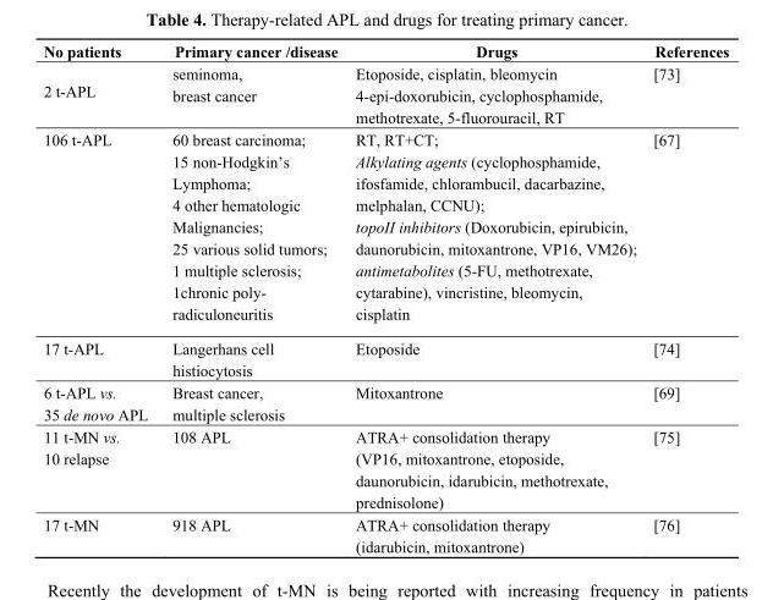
<table><thead><tr><td>No patients</td><td>Primary cancer /disease</td><td>Drugs</td><td>References</td></tr></thead><tbody><tr><td>2 t-APL</td><td>seminoma, breast cancer</td><td>Etoposide, cisplatin, bleomycin 4-epi-doxorubicin, cyclophosphamide, methotrexate, 5-fluorouracil, RT</td><td>[73]</td></tr><tr><td>106 t-APL</td><td>60 breast carcinoma; 15 non-Hodgkin’s Lymphoma; 4 other hematologic Malignancies; 25 various solid tumors; 1 multiple sclerosis; 1chronic poly- radiculoneuritis</td><td>RT, RT+CT; Alkylating agents (cyclophosphamide, ifosfamide, chlorambucil, dacarbazine, melphalan, CCNU); topoII inhibitors (Doxorubicin, epirubicin, daunorubicin, mitoxantrone, VP16, VM26); antimetabolites (5-FU, methotrexate, cytarabine), vincristine, bleomycin, cisplatin</td><td>[67]</td></tr><tr><td>17 t-APL</td><td>Langerhans cell histiocytosis</td><td>Etoposide</td><td>[74]</td></tr><tr><td>6 t-APL vs. 35 de novo APL</td><td>Breast cancer, multiple sclerosis</td><td>Mitoxantrone</td><td>[69]</td></tr><tr><td>11 t-MN vs. 10 relapse</td><td>108 APL</td><td>ATRA+ consolidation therapy (VP16, mitoxantrone, etoposide, daunorubicin, idarubicin, methotrexate, prednisolone)</td><td>[75]</td></tr><tr><td>17 t-MN</td><td>918 APL</td><td>ATRA+ consolidation therapy (idarubicin, mitoxantrone)</td><td>[76]</td></tr></tbody></table>